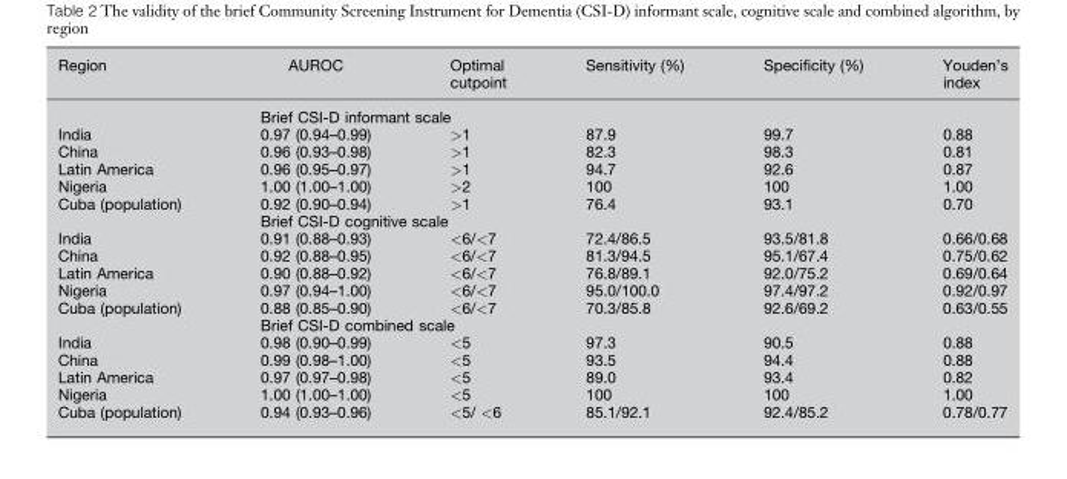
<table><thead><tr><td>Region</td><td>AUROC</td><td>Optimal cutpoint</td><td>Sensitivity (%)</td><td>Specificity (%)</td><td>Youden’s index</td></tr></thead><tbody><tr><td></td><td colspan="5">Brief CSI-D informant scale</td></tr><tr><td>India</td><td>0.97 (0.94–0.99)</td><td>&gt;1</td><td>87.9</td><td>99.7</td><td>0.88</td></tr><tr><td>China</td><td>0.96 (0.93–0.98)</td><td>&gt;1</td><td>82.3</td><td>98.3</td><td>0.81</td></tr><tr><td>Latin America</td><td>0.96 (0.95–0.97)</td><td>&gt;1</td><td>94.7</td><td>92.6</td><td>0.87</td></tr><tr><td>Nigeria</td><td>1.00 (1.00–1.00)</td><td>&gt;2</td><td>100</td><td>100</td><td>1.00</td></tr><tr><td rowspan="2">Cuba (population)</td><td>0.92 (0.90–0.94)</td><td>&gt;1</td><td>76.4</td><td>93.1</td><td>0.70</td></tr><tr><td colspan="5">Brief CSI-D cognitive scale</td></tr><tr><td>India</td><td>0.91 (0.88–0.93)</td><td>&lt;6/&lt;7</td><td>72.4/86.5</td><td>93.5/81.8</td><td>0.66/0.68</td></tr><tr><td>China</td><td>0.92 (0.88–0.95)</td><td>&lt;6/&lt;7</td><td>81.3/94.5</td><td>95.1/67.4</td><td>0.75/0.62</td></tr><tr><td>Latin America</td><td>0.90 (0.88–0.92)</td><td>&lt;6/&lt;7</td><td>76.8/89.1</td><td>92.0/75.2</td><td>0.69/0.64</td></tr><tr><td>Nigeria</td><td>0.97 (0.94–1.00)</td><td>&lt;6/&lt;7</td><td>95.0/100.0</td><td>97.4/97.2</td><td>0.92/0.97</td></tr><tr><td rowspan="2">Cuba (population)</td><td>0.88 (0.85–0.90)</td><td>&lt;6/&lt;7</td><td>70.3/85.8</td><td>92.6/69.2</td><td>0.63/0.55</td></tr><tr><td colspan="5">Brief CSI-D combined scale</td></tr><tr><td>India</td><td>0.98 (0.90–0.99)</td><td>&lt;5</td><td>97.3</td><td>90.5</td><td>0.88</td></tr><tr><td>China</td><td>0.99 (0.98–1.00)</td><td>&lt;5</td><td>93.5</td><td>94.4</td><td>0.88</td></tr><tr><td>Latin America</td><td>0.97 (0.97–0.98)</td><td>&lt;5</td><td>89.0</td><td>93.4</td><td>0.82</td></tr><tr><td>Nigeria</td><td>1.00 (1.00–1.00)</td><td>&lt;5</td><td>100</td><td>100</td><td>1.00</td></tr><tr><td>Cuba (population)</td><td>0.94 (0.93–0.96)</td><td>&lt;5/ &lt;6</td><td>85.1/92.1</td><td>92.4/85.2</td><td>0.78/0.77</td></tr></tbody></table>